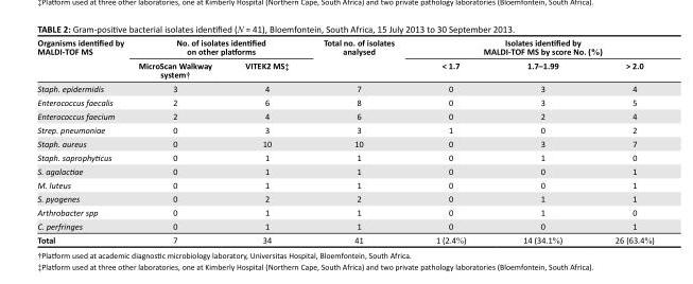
<table><thead><tr><td rowspan="2">Organisms identified by MALDI-TOF MS</td><td colspan="2">No. of isolates identified on other platforms</td><td rowspan="2">Total no. of isolates analysed</td><td colspan="3">Isolates identified by MALDI-TOF MS by score No. (%)</td></tr><tr><td>MicroScan Walkway system†</td><td>VITEK2 MS‡</td><td>&lt; 1.7</td><td>1.7–1.99</td><td>&gt; 2.0</td></tr></thead><tbody><tr><td>Staph. epidermidis</td><td>3</td><td>4</td><td>7</td><td>0</td><td>3</td><td>4</td></tr><tr><td>Enterococcus faecalis</td><td>2</td><td>6</td><td>8</td><td>0</td><td>3</td><td>5</td></tr><tr><td>Enterococcus faecium</td><td>2</td><td>4</td><td>6</td><td>0</td><td>2</td><td>4</td></tr><tr><td>Strep. pneumoniae</td><td>0</td><td>3</td><td>3</td><td>1</td><td>0</td><td>2</td></tr><tr><td>Staph. aureus</td><td>0</td><td>10</td><td>10</td><td>0</td><td>3</td><td>7</td></tr><tr><td>Staph. saprophyticus</td><td>0</td><td>1</td><td>1</td><td>0</td><td>1</td><td>0</td></tr><tr><td>S. agalactiae</td><td>0</td><td>1</td><td>1</td><td>0</td><td>0</td><td>1</td></tr><tr><td>M. luteus</td><td>0</td><td>1</td><td>1</td><td>0</td><td>0</td><td>1</td></tr><tr><td>S. pyogenes</td><td>0</td><td>2</td><td>2</td><td>0</td><td>1</td><td>1</td></tr><tr><td>Arthrobacter spp</td><td>0</td><td>1</td><td>1</td><td>0</td><td>1</td><td>0</td></tr><tr><td>C. perfringes</td><td>0</td><td>1</td><td>1</td><td>0</td><td>0</td><td>1</td></tr><tr><td>Total</td><td>7</td><td>34</td><td>41</td><td>1 (2.4%)</td><td>14 (34.1%)</td><td>26 (63.4%)</td></tr></tbody></table>